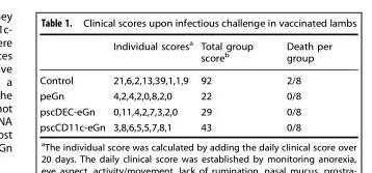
<table><thead><tr><td></td><td>Individual scores<sup>a</sup></td><td>Total group score<sup>b</sup></td><td>Death per group</td></tr></thead><tbody><tr><td>Control</td><td>21,6,2,13,39,1,1,9</td><td>92</td><td>2/8</td></tr><tr><td>peGn</td><td>4,2,4,2,0,8,2,0</td><td>22</td><td>0/8</td></tr><tr><td>pscDEC-eGn</td><td>0,11,4,2,7,3,2,0</td><td>29</td><td>0/8</td></tr><tr><td>pscCD11c-eGn</td><td>3,8,6,5,5,7,8,1</td><td>43</td><td>0/8</td></tr></tbody></table>